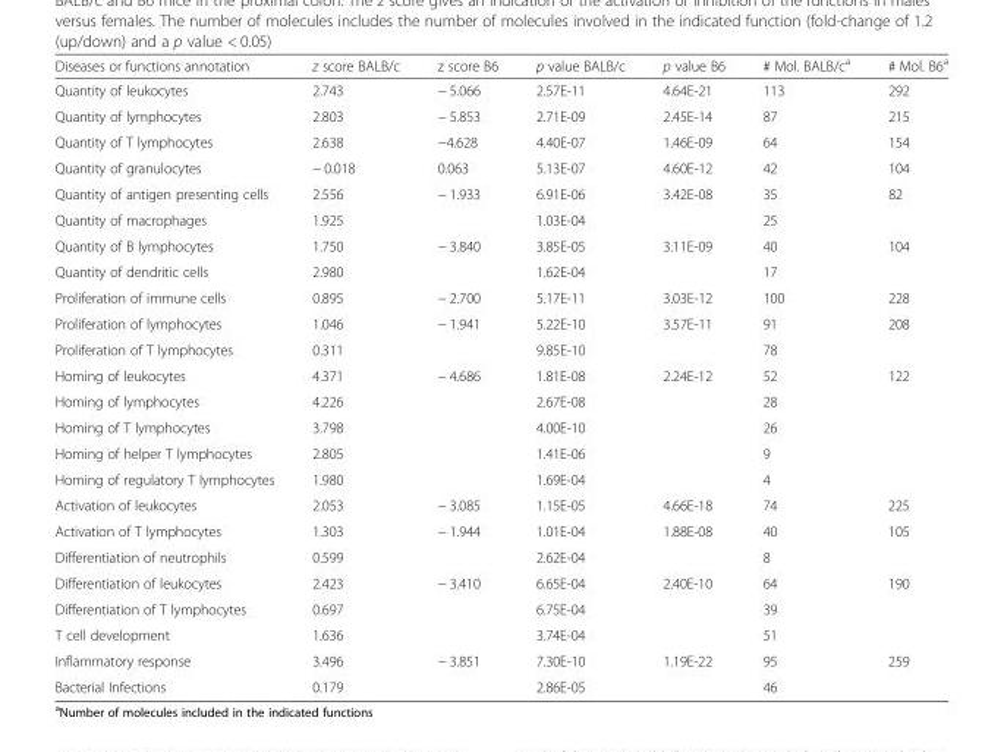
<table><thead><tr><td>Diseases or functions annotation</td><td>z score BALB/c</td><td>z score B6</td><td>p value BALB/c</td><td>p value B6</td><td># Mol. BALB/c<sup>a</sup></td><td># Mol. B6<sup>a</sup></td></tr></thead><tbody><tr><td>Quantity of leukocytes</td><td>2.743</td><td>− 5.066</td><td>2.57E-11</td><td>4.64E-21</td><td>113</td><td>292</td></tr><tr><td>Quantity of lymphocytes</td><td>2.803</td><td>− 5.853</td><td>2.71E-09</td><td>2.45E-14</td><td>87</td><td>215</td></tr><tr><td>Quantity of T lymphocytes</td><td>2.638</td><td>−4.628</td><td>4.40E-07</td><td>1.46E-09</td><td>64</td><td>154</td></tr><tr><td>Quantity of granulocytes</td><td>− 0.018</td><td>0.063</td><td>5.13E-07</td><td>4.60E-12</td><td>42</td><td>104</td></tr><tr><td>Quantity of antigen presenting cells</td><td>2.556</td><td>− 1.933</td><td>6.91E-06</td><td>3.42E-08</td><td>35</td><td>82</td></tr><tr><td>Quantity of macrophages</td><td>1.925</td><td></td><td>1.03E-04</td><td></td><td>25</td><td></td></tr><tr><td>Quantity of B lymphocytes</td><td>1.750</td><td>− 3.840</td><td>3.85E-05</td><td>3.11E-09</td><td>40</td><td>104</td></tr><tr><td>Quantity of dendritic cells</td><td>2.980</td><td></td><td>1.62E-04</td><td></td><td>17</td><td></td></tr><tr><td>Proliferation of immune cells</td><td>0.895</td><td>− 2.700</td><td>5.17E-11</td><td>3.03E-12</td><td>100</td><td>228</td></tr><tr><td>Proliferation of lymphocytes</td><td>1.046</td><td>− 1.941</td><td>5.22E-10</td><td>3.57E-11</td><td>91</td><td>208</td></tr><tr><td>Proliferation of T lymphocytes</td><td>0.311</td><td></td><td>9.85E-10</td><td></td><td>78</td><td></td></tr><tr><td>Homing of leukocytes</td><td>4.371</td><td>− 4.686</td><td>1.81E-08</td><td>2.24E-12</td><td>52</td><td>122</td></tr><tr><td>Homing of lymphocytes</td><td>4.226</td><td></td><td>2.67E-08</td><td></td><td>28</td><td></td></tr><tr><td>Homing of T lymphocytes</td><td>3.798</td><td></td><td>4.00E-10</td><td></td><td>26</td><td></td></tr><tr><td>Homing of helper T lymphocytes</td><td>2.805</td><td></td><td>1.41E-06</td><td></td><td>9</td><td></td></tr><tr><td>Homing of regulatory T lymphocytes</td><td>1.980</td><td></td><td>1.69E-04</td><td></td><td>4</td><td></td></tr><tr><td>Activation of leukocytes</td><td>2.053</td><td>− 3.085</td><td>1.15E-05</td><td>4.66E-18</td><td>74</td><td>225</td></tr><tr><td>Activation of T lymphocytes</td><td>1.303</td><td>− 1.944</td><td>1.01E-04</td><td>1.88E-08</td><td>40</td><td>105</td></tr><tr><td>Differentiation of neutrophils</td><td>0.599</td><td></td><td>2.62E-04</td><td></td><td>8</td><td></td></tr><tr><td>Differentiation of leukocytes</td><td>2.423</td><td>− 3.410</td><td>6.65E-04</td><td>2.40E-10</td><td>64</td><td>190</td></tr><tr><td>Differentiation of T lymphocytes</td><td>0.697</td><td></td><td>6.75E-04</td><td></td><td>39</td><td></td></tr><tr><td>T cell development</td><td>1.636</td><td></td><td>3.74E-04</td><td></td><td>51</td><td></td></tr><tr><td>Inflammatory response</td><td>3.496</td><td>− 3.851</td><td>7.30E-10</td><td>1.19E-22</td><td>95</td><td>259</td></tr><tr><td>Bacterial Infections</td><td>0.179</td><td></td><td>2.86E-05</td><td></td><td>46</td><td></td></tr></tbody></table>